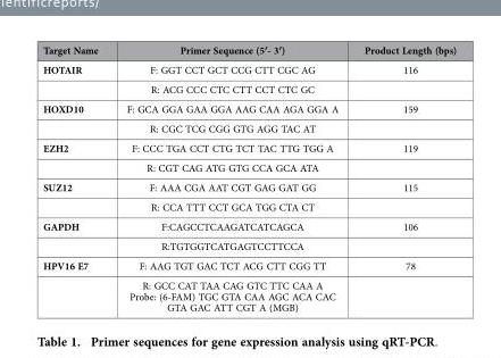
<table><tbody><tr><td>Target Name</td><td>Primer Sequence (5′- 3′)</td><td>Product Length (bps)</td></tr><tr><td rowspan="2">HOTAIR</td><td>F: GGT CCT GCT CCG CTT CGC AG</td><td>116</td></tr><tr><td>R: ACG CCC CTC CTT CCT CTC GC</td><td></td></tr><tr><td rowspan="2">HOXD10</td><td>F: GCA GGA GAA GGA AAG CAA AGA GGA A</td><td>159</td></tr><tr><td>R: CGC TCG CGG GTG AGG TAC AT</td><td></td></tr><tr><td rowspan="2">EZH2</td><td>F: CCC TGA CCT CTG TCT TAC TTG TGG A</td><td>119</td></tr><tr><td>R: CGT CAG ATG GTG CCA GCA ATA</td><td></td></tr><tr><td rowspan="2">SUZ12</td><td>F: AAA CGA AAT CGT GAG GAT GG</td><td>115</td></tr><tr><td>R: CCA TTT CCT GCA TGG CTA CT</td><td></td></tr><tr><td rowspan="2">GAPDH</td><td>F:CAGCCTCAAGATCATCAGCA</td><td>106</td></tr><tr><td>R:TGTGGTCATGAGTCCTTCCA</td><td></td></tr><tr><td rowspan="2">HPV16 E7</td><td>F: AAG TGT GAC TCT ACG CTT CGG TT</td><td>78</td></tr><tr><td>R: GCC CAT TAA CAG GTC TTC CAA A Probe: (6-FAM) TGC GTA CAA AGC ACA CAC GTA GAC ATT CGT A (MGB)</td><td></td></tr></tbody></table>